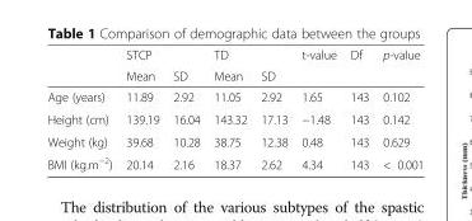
<table><thead><tr><td rowspan="2"></td><td rowspan="2">STCP Mean</td><td rowspan="2">SD</td><td rowspan="2">TD Mean</td><td rowspan="2">SD</td><td rowspan="2">t-value</td><td rowspan="2">Df</td><td rowspan="2">p-value</td></tr><tr></tr></thead><tbody><tr><td>Age (years)</td><td>11.89</td><td>2.92</td><td>11.05</td><td>2.92</td><td>1.65</td><td>143</td><td>0.102</td></tr><tr><td>Height (cm)</td><td>139.19</td><td>16.04</td><td>143.32</td><td>17.13</td><td>−1.48</td><td>143</td><td>0.142</td></tr><tr><td>Weight (kg)</td><td>39.68</td><td>10.28</td><td>38.75</td><td>12.38</td><td>0.48</td><td>143</td><td>0.629</td></tr><tr><td>BMI (kg.m<sup>−2</sup>)</td><td>20.14</td><td>2.16</td><td>18.37</td><td>2.62</td><td>4.34</td><td>143</td><td>&lt; 0.001</td></tr></tbody></table>